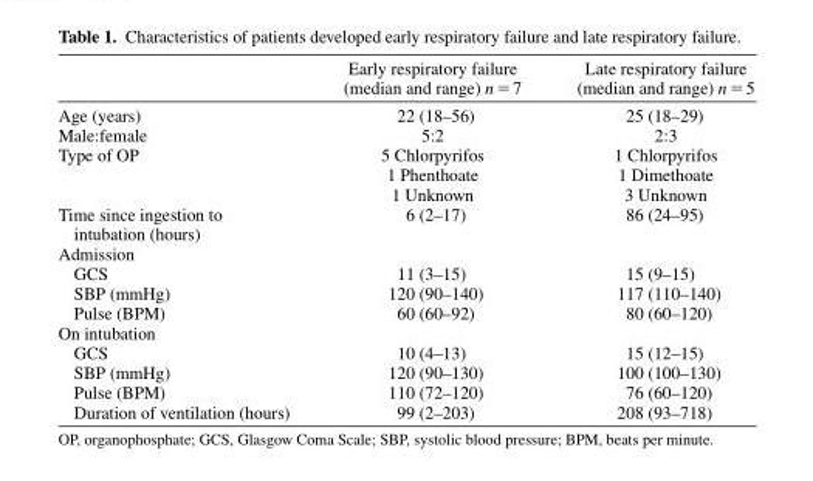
<table><thead><tr><td></td><td>Early respiratory failure (median and range) n = 7</td><td>Late respiratory failure (median and range) n = 5</td></tr></thead><tbody><tr><td>Age (years)</td><td>22 (18 – 56)</td><td>25 (18 – 29)</td></tr><tr><td>Male:female</td><td>5:2</td><td>2:3</td></tr><tr><td rowspan="3">Type of OP</td><td>5 Chlorpyrifos</td><td>1 Chlorpyrifos</td></tr><tr><td>1 Phenthoate</td><td>1 Dimethoate</td></tr><tr><td>1 Unknown</td><td>3 Unknown</td></tr><tr><td>Time since ingestion to intubation (hours)</td><td>6 (2 – 17)</td><td>86 (24 – 95)</td></tr><tr><td colspan="3">Admission</td></tr><tr><td>GCS</td><td>11 (3 – 15)</td><td>15 (9 – 15)</td></tr><tr><td>SBP (mmHg)</td><td>120 (90 – 140)</td><td>117 (110 – 140)</td></tr><tr><td>Pulse (BPM)</td><td>60 (60 – 92)</td><td>80 (60 – 120)</td></tr><tr><td colspan="3">On intubation</td></tr><tr><td>GCS</td><td>10 (4 – 13)</td><td>15 (12 – 15)</td></tr><tr><td>SBP (mmHg)</td><td>120 (90 – 130)</td><td>100 (100 – 130)</td></tr><tr><td>Pulse (BPM)</td><td>110 (72 – 120)</td><td>76 (60 – 120)</td></tr><tr><td>Duration of ventilation (hours)</td><td>99 (2 – 203)</td><td>208 (93 – 718)</td></tr></tbody></table>